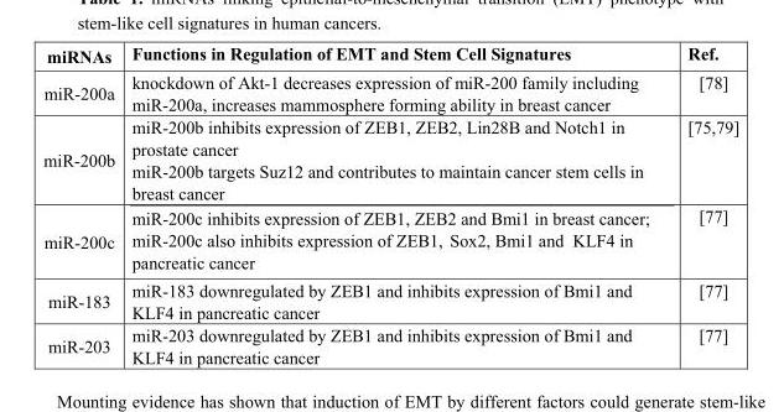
<table><thead><tr><td>miRNAs</td><td>Functions in Regulation of EMT and Stem Cell Signatures</td><td>Ref.</td></tr></thead><tbody><tr><td>miR-200a</td><td>knockdown of Akt-1 decreases expression of miR-200 family including miR-200a, increases mammosphere forming ability in breast cancer</td><td>[78]</td></tr><tr><td>miR-200b</td><td>miR-200b inhibits expression of ZEB1, ZEB2, Lin28B and Notch1 in prostate cancer miR-200b targets Suz12 and contributes to maintain cancer stem cells in breast cancer</td><td>[75,79]</td></tr><tr><td>miR-200c</td><td>miR-200c inhibits expression of ZEB1, ZEB2 and Bmi1 in breast cancer; miR-200c also inhibits expression of ZEB1, Sox2, Bmi1 and KLF4 in pancreatic cancer</td><td>[77]</td></tr><tr><td>miR-183</td><td>miR-183 downregulated by ZEB1 and inhibits expression of Bmi1 and KLF4 in pancreatic cancer</td><td>[77]</td></tr><tr><td>miR-203</td><td>miR-203 downregulated by ZEB1 and inhibits expression of Bmi1 and KLF4 in pancreatic cancer</td><td>[77]</td></tr></tbody></table>